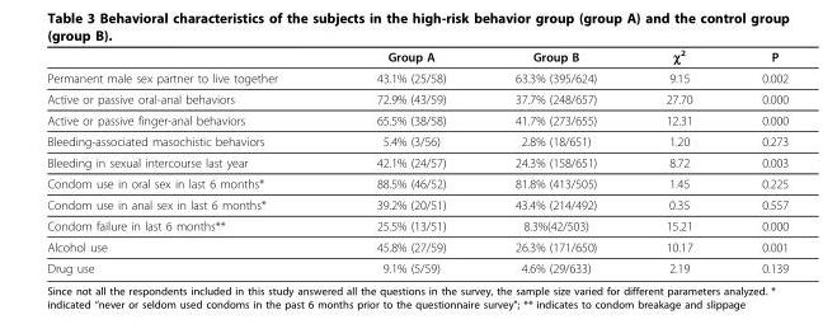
<table><thead><tr><td></td><td>Group A</td><td>Group B</td><td>χ<sup>2</sup></td><td>P</td></tr></thead><tbody><tr><td>Permanent male sex partner to live together</td><td>43.1% (25/58)</td><td>63.3% (395/624)</td><td>9.15</td><td>0.002</td></tr><tr><td>Active or passive oral-anal behaviors</td><td>72.9% (43/59)</td><td>37.7% (248/657)</td><td>27.70</td><td>0.000</td></tr><tr><td>Active or passive finger-anal behaviors</td><td>65.5% (38/58)</td><td>41.7% (273/655)</td><td>12.31</td><td>0.000</td></tr><tr><td>Bleeding-associated masochistic behaviors</td><td>5.4% (3/56)</td><td>2.8% (18/651)</td><td>1.20</td><td>0.273</td></tr><tr><td>Bleeding in sexual intercourse last year</td><td>42.1% (24/57)</td><td>24.3% (158/651)</td><td>8.72</td><td>0.003</td></tr><tr><td>Condom use in oral sex in last 6 months*</td><td>88.5% (46/52)</td><td>81.8% (413/505)</td><td>1.45</td><td>0.225</td></tr><tr><td>Condom use in anal sex in last 6 months*</td><td>39.2% (20/51)</td><td>43.4% (214/492)</td><td>0.35</td><td>0.557</td></tr><tr><td>Condom failure in last 6 months**</td><td>25.5% (13/51)</td><td>8.3%(42/503)</td><td>15.21</td><td>0.000</td></tr><tr><td>Alcohol use</td><td>45.8% (27/59)</td><td>26.3% (171/650)</td><td>10.17</td><td>0.001</td></tr><tr><td>Drug use</td><td>9.1% (5/59)</td><td>4.6% (29/633)</td><td>2.19</td><td>0.139</td></tr></tbody></table>